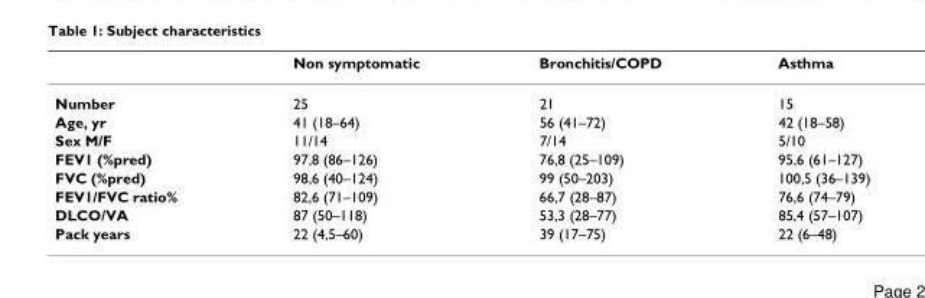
<table><thead><tr><td></td><td>Non symptomatic</td><td>Bronchitis/COPD</td><td>Asthma</td></tr></thead><tbody><tr><td>Number</td><td>25</td><td>21</td><td>15</td></tr><tr><td>Age, yr</td><td>41 (18–64)</td><td>56 (41–72)</td><td>42 (18–58)</td></tr><tr><td>Sex M/F</td><td>11/14</td><td>7/14</td><td>5/10</td></tr><tr><td>FEV1 (%pred)</td><td>97,8 (86–126)</td><td>76,8 (25–109)</td><td>95,6 (61–127)</td></tr><tr><td>FVC (%pred)</td><td>98,6 (40–124)</td><td>99 (50–203)</td><td>100,5 (36–139)</td></tr><tr><td>FEV1/FVC ratio%</td><td>82,6 (71–109)</td><td>66,7 (28–87)</td><td>76,6 (74–79)</td></tr><tr><td>DLCO/VA</td><td>87 (50–118)</td><td>53,3 (28–77)</td><td>85,4 (57–107)</td></tr><tr><td>Pack years</td><td>22 (4,5–60)</td><td>39 (17–75)</td><td>22 (6–48)</td></tr></tbody></table>